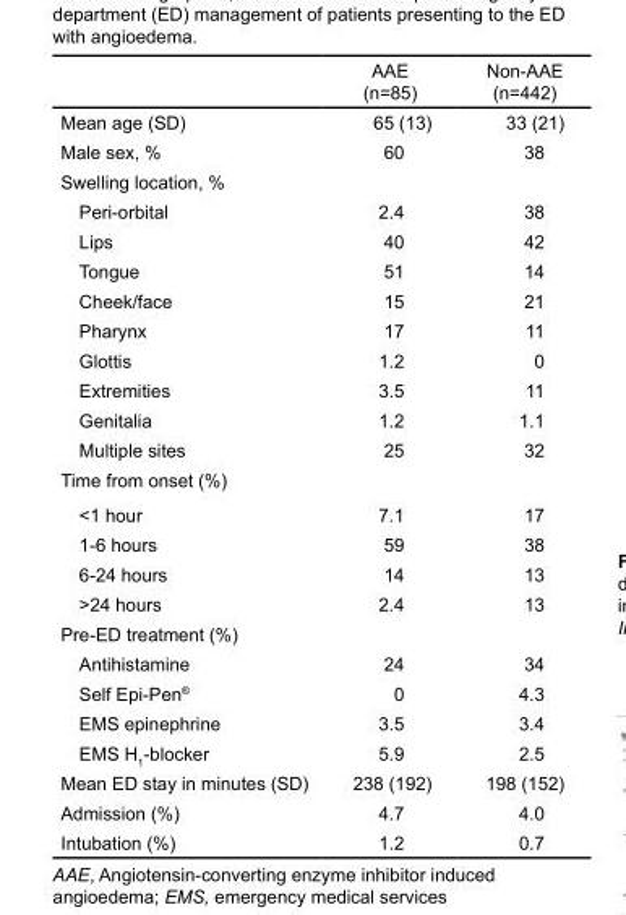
<table><thead><tr><td></td><td>AAE (n=85)</td><td>Non-AAE (n=442)</td></tr></thead><tbody><tr><td>Mean age (SD)</td><td>65 (13)</td><td>33 (21)</td></tr><tr><td>Male sex, %</td><td>60</td><td>38</td></tr><tr><td colspan="3">Swelling location, %</td></tr><tr><td>Peri-orbital</td><td>2.4</td><td>38</td></tr><tr><td>Lips</td><td>40</td><td>42</td></tr><tr><td>Tongue</td><td>51</td><td>14</td></tr><tr><td>Cheek/face</td><td>15</td><td>21</td></tr><tr><td>Pharynx</td><td>17</td><td>11</td></tr><tr><td>Glottis</td><td>1.2</td><td>0</td></tr><tr><td>Extremities</td><td>3.5</td><td>11</td></tr><tr><td>Genitalia</td><td>1.2</td><td>1.1</td></tr><tr><td>Multiple sites</td><td>25</td><td>32</td></tr><tr><td colspan="3">Time from onset (%)</td></tr><tr><td>&lt;1 hour</td><td>7.1</td><td>17</td></tr><tr><td>1-6 hours</td><td>59</td><td>38</td></tr><tr><td>6-24 hours</td><td>14</td><td>13</td></tr><tr><td>&gt;24 hours</td><td>2.4</td><td>13</td></tr><tr><td colspan="3">Pre-ED treatment (%)</td></tr><tr><td>Antihistamine</td><td>24</td><td>34</td></tr><tr><td>Self Epi-Pen<sup>®</sup></td><td>0</td><td>4.3</td></tr><tr><td>EMS epinephrine</td><td>3.5</td><td>3.4</td></tr><tr><td>EMS H<sub>1</sub>-blocker</td><td>5.9</td><td>2.5</td></tr><tr><td>Mean ED stay in minutes (SD)</td><td>238 (192)</td><td>198 (152)</td></tr><tr><td>Admission (%)</td><td>4.7</td><td>4.0</td></tr><tr><td>Intubation (%)</td><td>1.2</td><td>0.7</td></tr></tbody></table>